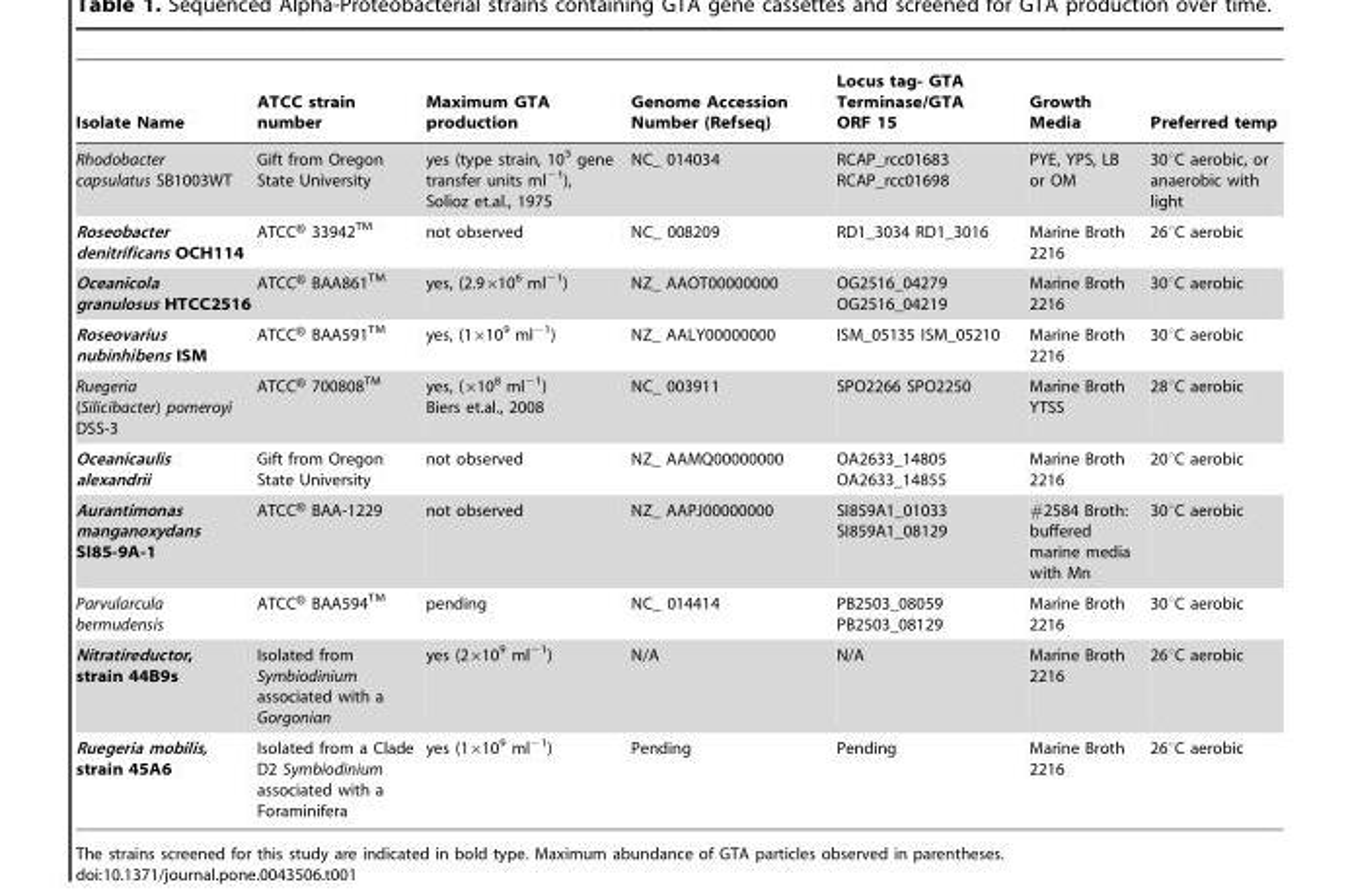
<table><thead><tr><td>Isolate Name</td><td>ATCC strain number</td><td>Maximum GTA production</td><td>Genome Accession Number (Refseq)</td><td>Locus tag- GTA Terminase/GTA ORF 15</td><td>Growth Media</td><td>Preferred temp</td></tr></thead><tbody><tr><td>Rhodobacter capsulatus SB1003WT</td><td>Gift from Oregon State University</td><td>yes (type strain, 10<sup>5</sup> gene transfer units ml<sup>−1</sup>), Solioz et.al., 1975</td><td>NC_ 014034</td><td>RCAP_rcc01683 RCAP_rcc01698</td><td>PYE, YPS, LB or OM</td><td>30°C aerobic, or anaerobic with light</td></tr><tr><td>Roseobacter denitrificans OCH114</td><td>ATCC® 33942<sup>TM</sup></td><td>not observed</td><td>NC_ 008209</td><td>RD1_3034 RD1_3016</td><td>Marine Broth 2216</td><td>26°C aerobic</td></tr><tr><td>Oceanicola granulosus HTCC2516</td><td>ATCC® BAA861<sup>TM</sup></td><td>yes, (2.9×10<sup>6</sup> ml<sup>−1</sup>)</td><td>NZ_ AAOT00000000</td><td>OG2516_04279 OG2516_04219</td><td>Marine Broth 2216</td><td>30°C aerobic</td></tr><tr><td>Roseovarius nubinhibens ISM</td><td>ATCC® BAA591<sup>TM</sup></td><td>yes, (1×10<sup>9</sup> ml<sup>−1</sup>)</td><td>NZ_ AALY00000000</td><td>ISM_05135 ISM_05210</td><td>Marine Broth 2216</td><td>30°C aerobic</td></tr><tr><td>Ruegeria (Silicibacter) pomeroyi DSS-3</td><td>ATCC® 700808<sup>TM</sup></td><td>yes, (×10<sup>8</sup> ml<sup>−1</sup>) Biers et.al., 2008</td><td>NC_ 003911</td><td>SPO2266 SPO2250</td><td>Marine Broth YTSS</td><td>28°C aerobic</td></tr><tr><td>Oceanicaulis alexandrii</td><td>Gift from Oregon State University</td><td>not observed</td><td>NZ_ AAMQ00000000</td><td>OA2633_14805 OA2633_14855</td><td>Marine Broth 2216</td><td>20°C aerobic</td></tr><tr><td>Aurantimonas manganoxydans SI85-9A-1</td><td>ATCC® BAA-1229</td><td>not observed</td><td>NZ_ AAPJ00000000</td><td>SI859A1_01033 SI859A1_08129</td><td>#2584 Broth: buffered marine media with Mn</td><td>30°C aerobic</td></tr><tr><td>Parvularcula bermudensis</td><td>ATCC® BAA594<sup>TM</sup></td><td>pending</td><td>NC_ 014414</td><td>PB2503_08059 PB2503_08129</td><td>Marine Broth 2216</td><td>30°C aerobic</td></tr><tr><td>Nitratireductor, strain 44B9s</td><td>Isolated from Symbiodinium associated with a Gorgonian</td><td>yes (2×10<sup>9</sup> ml<sup>−1</sup>)</td><td>N/A</td><td>N/A</td><td>Marine Broth 2216</td><td>26°C aerobic</td></tr><tr><td>Ruegeria mobilis, strain 45A6</td><td>Isolated from a Clade D2 Symbiodinium associated with a Foraminifera</td><td>yes (1×10<sup>9</sup> ml<sup>−1</sup>)</td><td>Pending</td><td>Pending</td><td>Marine Broth 2216</td><td>26°C aerobic</td></tr></tbody></table>